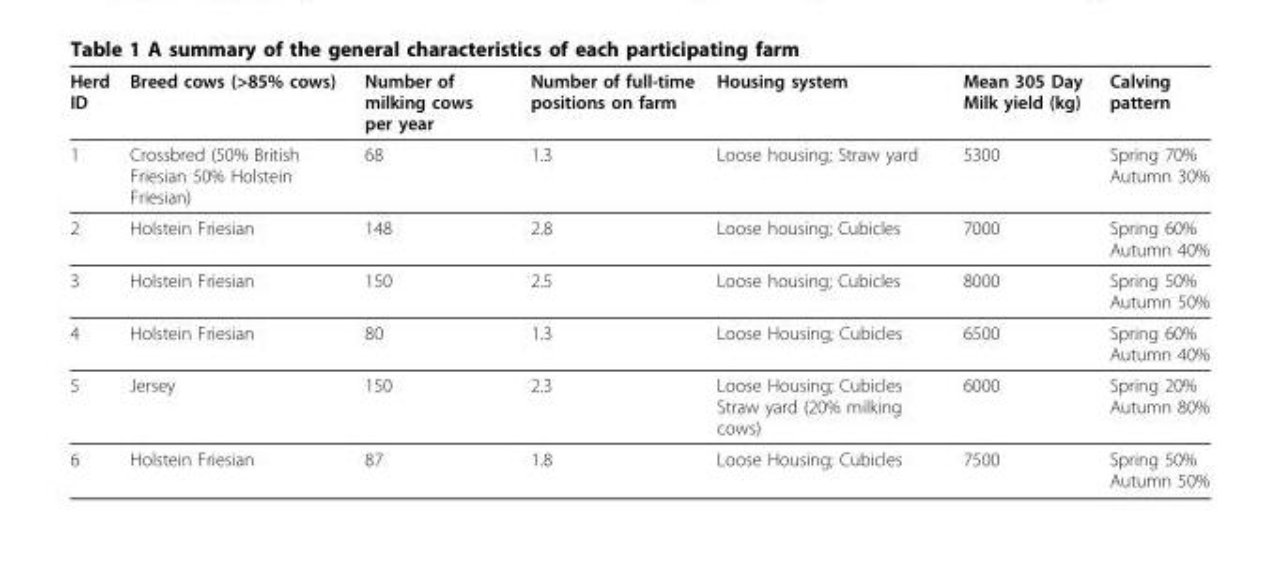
<table><thead><tr><td>Herd ID</td><td>Breed cows (&gt;85% cows)</td><td>Number of milking cows per year</td><td>Number of full-time positions on farm</td><td>Housing system</td><td>Mean 305 Day Milk yield (kg)</td><td>Calving pattern</td></tr></thead><tbody><tr><td>1</td><td>Crossbred (50% British Friesian 50% Holstein Friesian)</td><td>68</td><td>1.3</td><td>Loose housing; Straw yard</td><td>5300</td><td>Spring 70% Autumn 30%</td></tr><tr><td>2</td><td>Holstein Friesian</td><td>148</td><td>2.8</td><td>Loose housing; Cubicles</td><td>7000</td><td>Spring 60% Autumn 40%</td></tr><tr><td>3</td><td>Holstein Friesian</td><td>150</td><td>2.5</td><td>Loose housing; Cubicles</td><td>8000</td><td>Spring 50% Autumn 50%</td></tr><tr><td>4</td><td>Holstein Friesian</td><td>80</td><td>1.3</td><td>Loose Housing; Cubicles</td><td>6500</td><td>Spring 60% Autumn 40%</td></tr><tr><td>5</td><td>Jersey</td><td>150</td><td>2.3</td><td>Loose Housing; Cubicles Straw yard (20% milking cows)</td><td>6000</td><td>Spring 20% Autumn 80%</td></tr><tr><td>6</td><td>Holstein Friesian</td><td>87</td><td>1.8</td><td>Loose Housing; Cubicles</td><td>7500</td><td>Spring 50% Autumn 50%</td></tr></tbody></table>